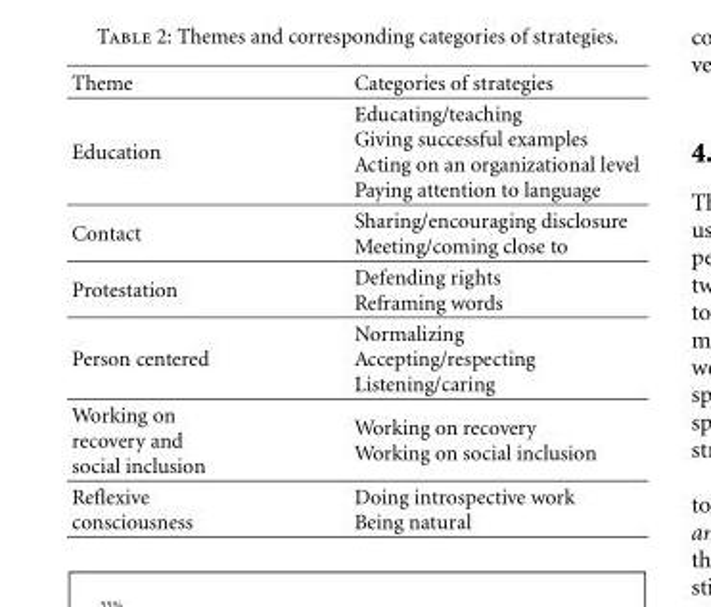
<table><thead><tr><td>Theme</td><td>Categories of strategies</td></tr></thead><tbody><tr><td>Education</td><td>Educating/teaching Giving successful examples Acting on an organizational level Paying attention to language</td></tr><tr><td>Contact</td><td>Sharing/encouraging disclosure Meeting/coming close to</td></tr><tr><td>Protestation</td><td>Defending rights Reframing words</td></tr><tr><td>Person centered</td><td>Normalizing Accepting/respecting Listening/caring</td></tr><tr><td>Working on recovery and social inclusion</td><td>Working on recovery Working on social inclusion</td></tr><tr><td>Reflexive consciousness</td><td>Doing introspective work Being natural</td></tr></tbody></table>